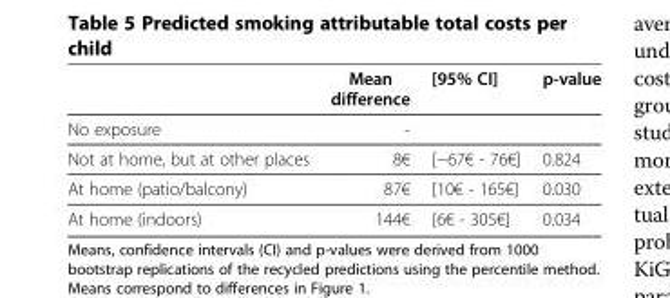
<table><thead><tr><td></td><td>Mean difference</td><td>[95% CI]</td><td>p-value</td></tr></thead><tbody><tr><td>No exposure</td><td>-</td><td></td><td></td></tr><tr><td>Not at home, but at other places</td><td>8€</td><td>[−67€ - 76€]</td><td>0.824</td></tr><tr><td>At home (patio/balcony)</td><td>87€</td><td>[10€ - 165€]</td><td>0.030</td></tr><tr><td>At home (indoors)</td><td>144€</td><td>[6€ - 305€]</td><td>0.034</td></tr></tbody></table>